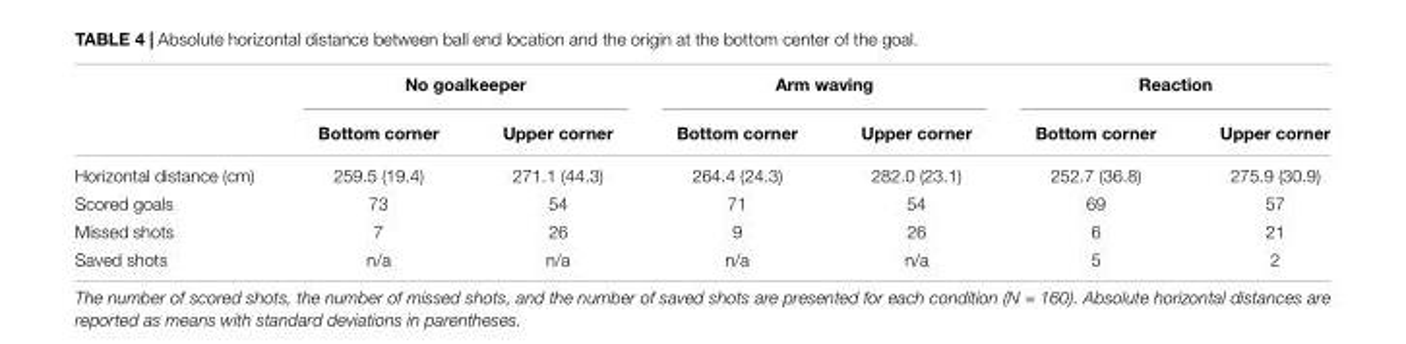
<table><thead><tr><td rowspan="2"></td><td colspan="2">No goalkeeper</td><td colspan="2">Arm waving</td><td colspan="2">Reaction</td></tr><tr><td>Bottom corner</td><td>Upper corner</td><td>Bottom corner</td><td>Upper corner</td><td>Bottom corner</td><td>Upper corner</td></tr></thead><tbody><tr><td>Horizontal distance (cm)</td><td>259.5 (19.4)</td><td>271.1 (44.3)</td><td>264.4 (24.3)</td><td>282.0 (23.1)</td><td>252.7 (36.8)</td><td>275.9 (30.9)</td></tr><tr><td>Scored goals</td><td>73</td><td>54</td><td>71</td><td>54</td><td>69</td><td>57</td></tr><tr><td>Missed shots</td><td>7</td><td>26</td><td>9</td><td>26</td><td>6</td><td>21</td></tr><tr><td>Saved shots</td><td>n/a</td><td>n/a</td><td>n/a</td><td>n/a</td><td>5</td><td>2</td></tr></tbody></table>